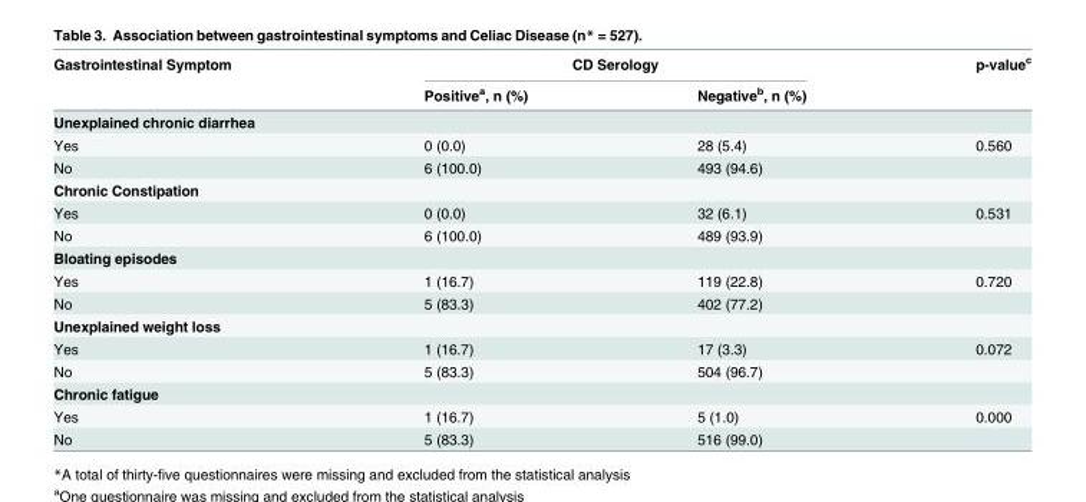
<table><thead><tr><td rowspan="2">Gastrointestinal Symptom</td><td colspan="2">CD Serology</td><td rowspan="2">p-value<sup>c</sup></td></tr><tr><td>Positive<sup>a</sup>, n (%)</td><td>Negative<sup>b</sup>, n (%)</td></tr></thead><tbody><tr><td colspan="4">Unexplained chronic diarrhea</td></tr><tr><td>Yes</td><td>0 (0.0)</td><td>28 (5.4)</td><td>0.560</td></tr><tr><td>No</td><td>6 (100.0)</td><td>493 (94.6)</td><td></td></tr><tr><td colspan="4">Chronic Constipation</td></tr><tr><td>Yes</td><td>0 (0.0)</td><td>32 (6.1)</td><td>0.531</td></tr><tr><td>No</td><td>6 (100.0)</td><td>489 (93.9)</td><td></td></tr><tr><td colspan="4">Bloating episodes</td></tr><tr><td>Yes</td><td>1 (16.7)</td><td>119 (22.8)</td><td>0.720</td></tr><tr><td>No</td><td>5 (83.3)</td><td>402 (77.2)</td><td></td></tr><tr><td colspan="4">Unexplained weight loss</td></tr><tr><td>Yes</td><td>1 (16.7)</td><td>17 (3.3)</td><td>0.072</td></tr><tr><td>No</td><td>5 (83.3)</td><td>504 (96.7)</td><td></td></tr><tr><td colspan="4">Chronic fatigue</td></tr><tr><td>Yes</td><td>1 (16.7)</td><td>5 (1.0)</td><td>0.000</td></tr><tr><td>No</td><td>5 (83.3)</td><td>516 (99.0)</td><td></td></tr></tbody></table>